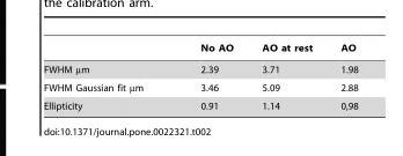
<table><thead><tr><td></td><td>No AO</td><td>AO at rest</td><td>AO</td></tr></thead><tbody><tr><td>FWHM µm</td><td>2.39</td><td>3.71</td><td>1.98</td></tr><tr><td>FWHM Gaussian fit µm</td><td>3.46</td><td>5.09</td><td>2.88</td></tr><tr><td>Ellipticity</td><td>0.91</td><td>1.14</td><td>0,98</td></tr></tbody></table>